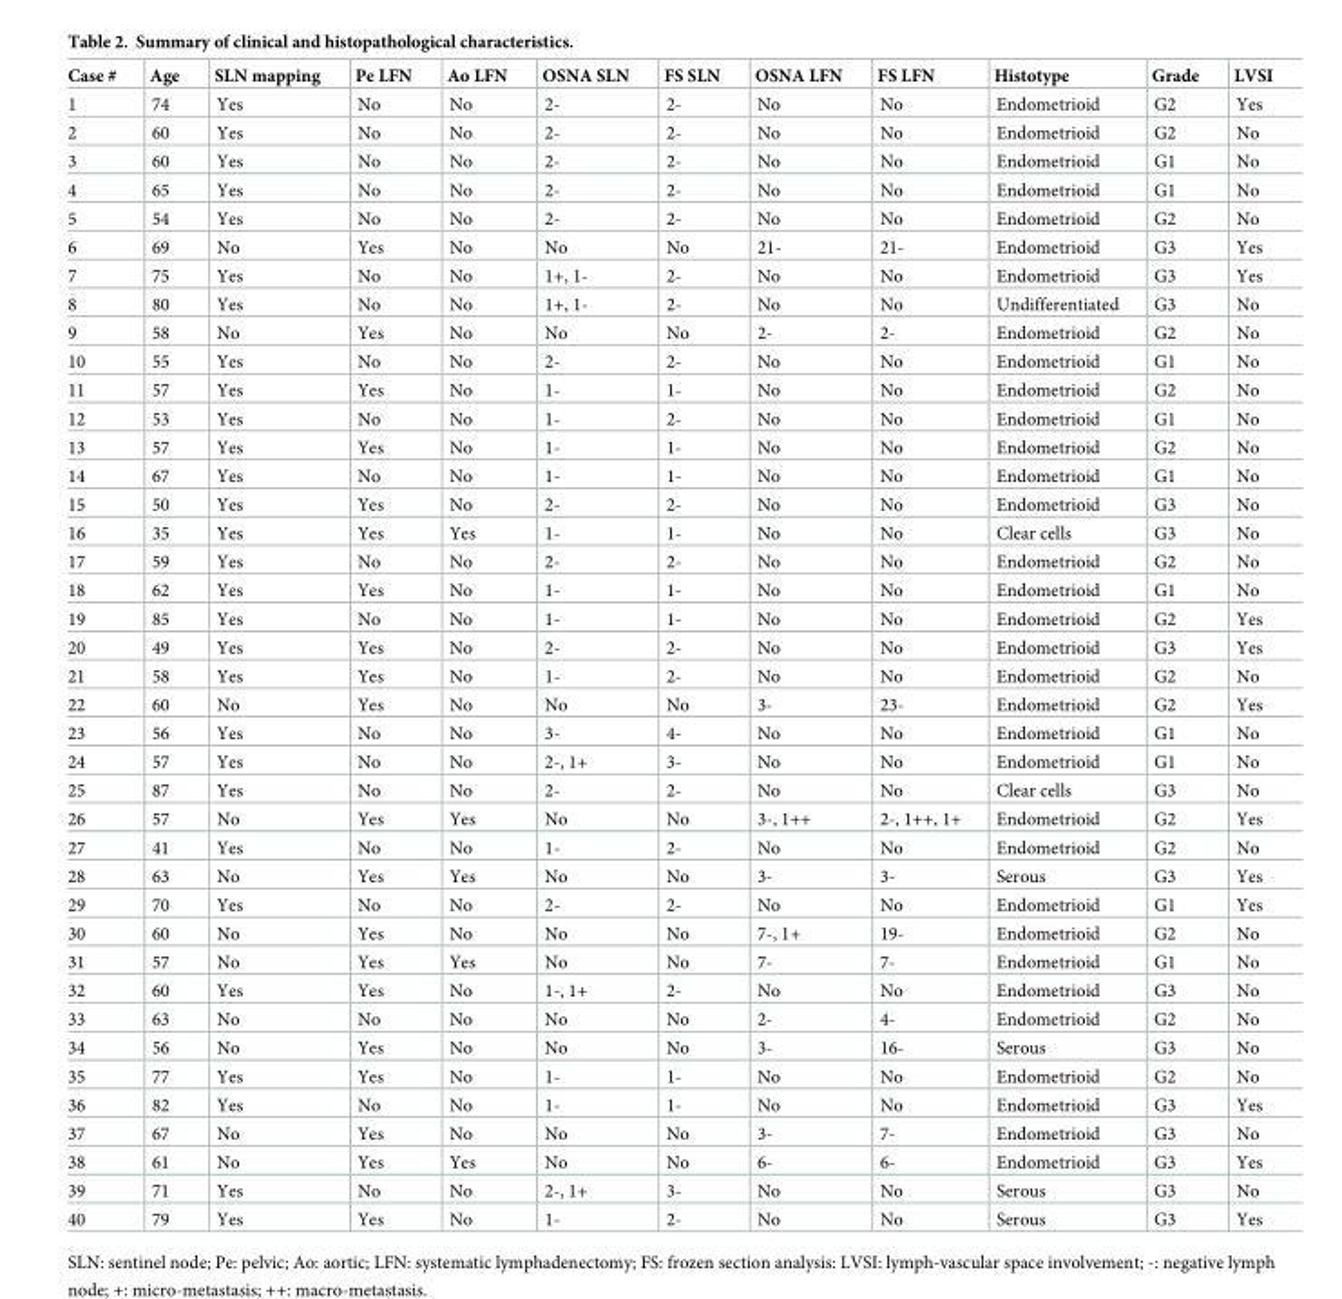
<table><thead><tr><td>Case #</td><td>Age</td><td>SLN mapping</td><td>Pe LFN</td><td>Ao LFN</td><td>OSNA SLN</td><td>FS SLN</td><td>OSNA LFN</td><td>FS LFN</td><td>Histotype</td><td>Grade</td><td>LVSI</td></tr></thead><tbody><tr><td>1</td><td>74</td><td>Yes</td><td>No</td><td>No</td><td>2-</td><td>2-</td><td>No</td><td>No</td><td>Endometrioid</td><td>G2</td><td>Yes</td></tr><tr><td>2</td><td>60</td><td>Yes</td><td>No</td><td>No</td><td>2-</td><td>2-</td><td>No</td><td>No</td><td>Endometrioid</td><td>G2</td><td>No</td></tr><tr><td>3</td><td>60</td><td>Yes</td><td>No</td><td>No</td><td>2-</td><td>2-</td><td>No</td><td>No</td><td>Endometrioid</td><td>G1</td><td>No</td></tr><tr><td>4</td><td>65</td><td>Yes</td><td>No</td><td>No</td><td>2-</td><td>2-</td><td>No</td><td>No</td><td>Endometrioid</td><td>G1</td><td>No</td></tr><tr><td>5</td><td>54</td><td>Yes</td><td>No</td><td>No</td><td>2-</td><td>2-</td><td>No</td><td>No</td><td>Endometrioid</td><td>G2</td><td>No</td></tr><tr><td>6</td><td>69</td><td>No</td><td>Yes</td><td>No</td><td>No</td><td>No</td><td>21-</td><td>21-</td><td>Endometrioid</td><td>G3</td><td>Yes</td></tr><tr><td>7</td><td>75</td><td>Yes</td><td>No</td><td>No</td><td>1+, 1-</td><td>2-</td><td>No</td><td>No</td><td>Endometrioid</td><td>G3</td><td>Yes</td></tr><tr><td>8</td><td>80</td><td>Yes</td><td>No</td><td>No</td><td>1+, 1-</td><td>2-</td><td>No</td><td>No</td><td>Undifferentiated</td><td>G3</td><td>No</td></tr><tr><td>9</td><td>58</td><td>No</td><td>Yes</td><td>No</td><td>No</td><td>No</td><td>2-</td><td>2-</td><td>Endometrioid</td><td>G2</td><td>No</td></tr><tr><td>10</td><td>55</td><td>Yes</td><td>No</td><td>No</td><td>2-</td><td>2-</td><td>No</td><td>No</td><td>Endometrioid</td><td>G1</td><td>No</td></tr><tr><td>11</td><td>57</td><td>Yes</td><td>Yes</td><td>No</td><td>1-</td><td>1-</td><td>No</td><td>No</td><td>Endometrioid</td><td>G2</td><td>No</td></tr><tr><td>12</td><td>53</td><td>Yes</td><td>No</td><td>No</td><td>1-</td><td>2-</td><td>No</td><td>No</td><td>Endometrioid</td><td>G1</td><td>No</td></tr><tr><td>13</td><td>57</td><td>Yes</td><td>Yes</td><td>No</td><td>1-</td><td>1-</td><td>No</td><td>No</td><td>Endometrioid</td><td>G2</td><td>No</td></tr><tr><td>14</td><td>67</td><td>Yes</td><td>No</td><td>No</td><td>1-</td><td>1-</td><td>No</td><td>No</td><td>Endometrioid</td><td>G1</td><td>No</td></tr><tr><td>15</td><td>50</td><td>Yes</td><td>Yes</td><td>No</td><td>2-</td><td>2-</td><td>No</td><td>No</td><td>Endometrioid</td><td>G3</td><td>No</td></tr><tr><td>16</td><td>35</td><td>Yes</td><td>Yes</td><td>Yes</td><td>1-</td><td>1-</td><td>No</td><td>No</td><td>Clear cells</td><td>G3</td><td>No</td></tr><tr><td>17</td><td>59</td><td>Yes</td><td>No</td><td>No</td><td>2-</td><td>2-</td><td>No</td><td>No</td><td>Endometrioid</td><td>G2</td><td>No</td></tr><tr><td>18</td><td>62</td><td>Yes</td><td>Yes</td><td>No</td><td>1-</td><td>1-</td><td>No</td><td>No</td><td>Endometrioid</td><td>G1</td><td>No</td></tr><tr><td>19</td><td>85</td><td>Yes</td><td>No</td><td>No</td><td>1-</td><td>1-</td><td>No</td><td>No</td><td>Endometrioid</td><td>G2</td><td>Yes</td></tr><tr><td>20</td><td>49</td><td>Yes</td><td>Yes</td><td>No</td><td>2-</td><td>2-</td><td>No</td><td>No</td><td>Endometrioid</td><td>G3</td><td>Yes</td></tr><tr><td>21</td><td>58</td><td>Yes</td><td>Yes</td><td>No</td><td>1-</td><td>2-</td><td>No</td><td>No</td><td>Endometrioid</td><td>G2</td><td>No</td></tr><tr><td>22</td><td>60</td><td>No</td><td>Yes</td><td>No</td><td>No</td><td>No</td><td>3-</td><td>23-</td><td>Endometrioid</td><td>G2</td><td>Yes</td></tr><tr><td>23</td><td>56</td><td>Yes</td><td>No</td><td>No</td><td>3-</td><td>4-</td><td>No</td><td>No</td><td>Endometrioid</td><td>G1</td><td>No</td></tr><tr><td>24</td><td>57</td><td>Yes</td><td>No</td><td>No</td><td>2-, 1+</td><td>3-</td><td>No</td><td>No</td><td>Endometrioid</td><td>G1</td><td>No</td></tr><tr><td>25</td><td>87</td><td>Yes</td><td>No</td><td>No</td><td>2-</td><td>2-</td><td>No</td><td>No</td><td>Clear cells</td><td>G3</td><td>No</td></tr><tr><td>26</td><td>57</td><td>No</td><td>Yes</td><td>Yes</td><td>No</td><td>No</td><td>3-, 1++</td><td>2-, 1++, 1+</td><td>Endometrioid</td><td>G2</td><td>Yes</td></tr><tr><td>27</td><td>41</td><td>Yes</td><td>No</td><td>No</td><td>1-</td><td>2-</td><td>No</td><td>No</td><td>Endometrioid</td><td>G2</td><td>No</td></tr><tr><td>28</td><td>63</td><td>No</td><td>Yes</td><td>Yes</td><td>No</td><td>No</td><td>3-</td><td>3-</td><td>Serous</td><td>G3</td><td>Yes</td></tr><tr><td>29</td><td>70</td><td>Yes</td><td>No</td><td>No</td><td>2-</td><td>2-</td><td>No</td><td>No</td><td>Endometrioid</td><td>G1</td><td>Yes</td></tr><tr><td>30</td><td>60</td><td>No</td><td>Yes</td><td>No</td><td>No</td><td>No</td><td>7-, 1+</td><td>19-</td><td>Endometrioid</td><td>G2</td><td>No</td></tr><tr><td>31</td><td>57</td><td>No</td><td>Yes</td><td>Yes</td><td>No</td><td>No</td><td>7-</td><td>7-</td><td>Endometrioid</td><td>G1</td><td>No</td></tr><tr><td>32</td><td>60</td><td>Yes</td><td>Yes</td><td>No</td><td>1-, 1+</td><td>2-</td><td>No</td><td>No</td><td>Endometrioid</td><td>G3</td><td>No</td></tr><tr><td>33</td><td>63</td><td>No</td><td>No</td><td>No</td><td>No</td><td>No</td><td>2-</td><td>4-</td><td>Endometrioid</td><td>G2</td><td>No</td></tr><tr><td>34</td><td>56</td><td>No</td><td>Yes</td><td>No</td><td>No</td><td>No</td><td>3-</td><td>16-</td><td>Serous</td><td>G3</td><td>No</td></tr><tr><td>35</td><td>77</td><td>Yes</td><td>Yes</td><td>No</td><td>1-</td><td>1-</td><td>No</td><td>No</td><td>Endometrioid</td><td>G2</td><td>No</td></tr><tr><td>36</td><td>82</td><td>Yes</td><td>No</td><td>No</td><td>1-</td><td>1-</td><td>No</td><td>No</td><td>Endometrioid</td><td>G3</td><td>Yes</td></tr><tr><td>37</td><td>67</td><td>No</td><td>Yes</td><td>No</td><td>No</td><td>No</td><td>3-</td><td>7-</td><td>Endometrioid</td><td>G3</td><td>No</td></tr><tr><td>38</td><td>61</td><td>No</td><td>Yes</td><td>Yes</td><td>No</td><td>No</td><td>6-</td><td>6-</td><td>Endometrioid</td><td>G3</td><td>Yes</td></tr><tr><td>39</td><td>71</td><td>Yes</td><td>No</td><td>No</td><td>2-, 1+</td><td>3-</td><td>No</td><td>No</td><td>Serous</td><td>G3</td><td>No</td></tr><tr><td>40</td><td>79</td><td>Yes</td><td>Yes</td><td>No</td><td>1-</td><td>2-</td><td>No</td><td>No</td><td>Serous</td><td>G3</td><td>Yes</td></tr></tbody></table>